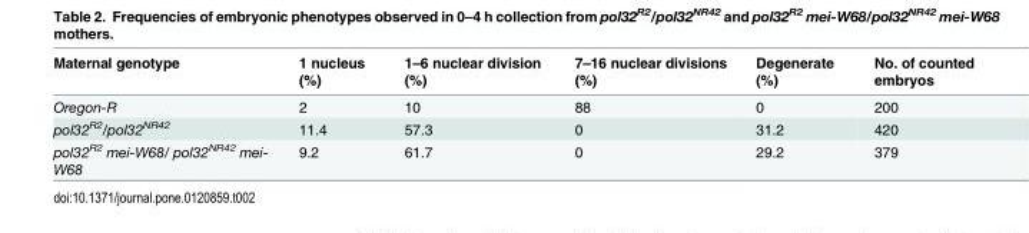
<table><thead><tr><td>Maternal genotype</td><td>1 nucleus (%)</td><td>1–6 nuclear division (%)</td><td>7–16 nuclear divisions (%)</td><td>Degenerate (%)</td><td>No. of counted embryos</td></tr></thead><tbody><tr><td>Oregon-R</td><td>2</td><td>10</td><td>88</td><td>0</td><td>200</td></tr><tr><td>pol32<sup>R2</sup>/pol32<sup>NR42</sup></td><td>11.4</td><td>57.3</td><td>0</td><td>31.2</td><td>420</td></tr><tr><td>pol32<sup>R2</sup> mei-W68/ pol32<sup>NR42</sup> mei- W68</td><td>9.2</td><td>61.7</td><td>0</td><td>29.2</td><td>379</td></tr></tbody></table>